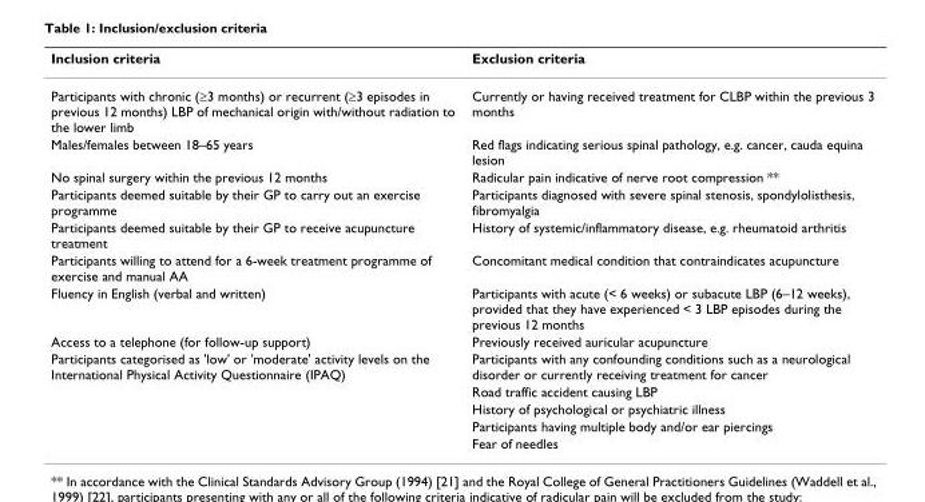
<table><thead><tr><td>Inclusion criteria</td><td>Exclusion criteria</td></tr></thead><tbody><tr><td>Participants with chronic (≥3 months) or recurrent (≥3 episodes in previous 12 months) LBP of mechanical origin with/without radiation to the lower limb</td><td>Currently or having received treatment for CLBP within the previous 3 months</td></tr><tr><td>Males/females between 18–65 years</td><td>Red flags indicating serious spinal pathology, e.g. cancer, cauda equina lesion</td></tr><tr><td>No spinal surgery within the previous 12 months</td><td>Radicular pain indicative of nerve root compression **</td></tr><tr><td>Participants deemed suitable by their GP to carry out an exercise programme</td><td>Participants diagnosed with severe spinal stenosis, spondylolisthesis, fibromyalgia</td></tr><tr><td>Participants deemed suitable by their GP to receive acupuncture treatment</td><td>History of systemic/inflammatory disease, e.g. rheumatoid arthritis</td></tr><tr><td>Participants willing to attend for a 6-week treatment programme of exercise and manual AA</td><td>Concomitant medical condition that contraindicates acupuncture</td></tr><tr><td>Fluency in English (verbal and written)</td><td>Participants with acute (&lt; 6 weeks) or subacute LBP (6–12 weeks), provided that they have experienced &lt; 3 LBP episodes during the previous 12 months</td></tr><tr><td>Access to a telephone (for follow-up support)</td><td>Previously received auricular acupuncture</td></tr><tr><td rowspan="5">Participants categorised as &#x27;low&#x27; or &#x27;moderate&#x27; activity levels on the International Physical Activity Questionnaire (IPAQ)</td><td>Participants with any confounding conditions such as a neurological disorder or currently receiving treatment for cancer</td></tr><tr><td>Road traffic accident causing LBP</td></tr><tr><td>History of psychological or psychiatric illness</td></tr><tr><td>Participants having multiple body and/or ear piercings</td></tr><tr><td>Fear of needles</td></tr></tbody></table>